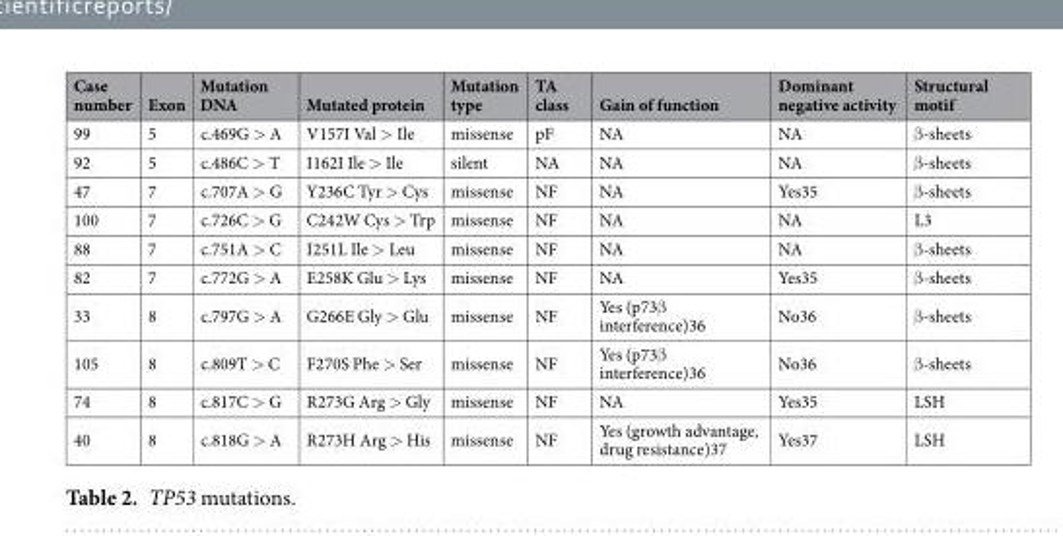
<table><thead><tr><td>Case number</td><td>Exon</td><td>Mutation DNA</td><td>Mutated protein</td><td>Mutation type</td><td>TA class</td><td>Gain of function</td><td>Dominant negative activity</td><td>Structural motif</td></tr></thead><tbody><tr><td>99</td><td>5</td><td>c.469G &gt; A</td><td>V157I Val &gt; Ile</td><td>missense</td><td>pF</td><td>NA</td><td>NA</td><td>β-sheets</td></tr><tr><td>92</td><td>5</td><td>c.486C &gt; T</td><td>I162I Ile &gt; Ile</td><td>silent</td><td>NA</td><td>NA</td><td>NA</td><td>β-sheets</td></tr><tr><td>47</td><td>7</td><td>c.707A &gt; G</td><td>Y236C Tyr &gt; Cys</td><td>missense</td><td>NF</td><td>NA</td><td>Yes35</td><td>β-sheets</td></tr><tr><td>100</td><td>7</td><td>c.726C &gt; G</td><td>C242W Cys &gt; Trp</td><td>missense</td><td>NF</td><td>NA</td><td>NA</td><td>L3</td></tr><tr><td>88</td><td>7</td><td>c.751A &gt; C</td><td>I251L Ile &gt; Leu</td><td>missense</td><td>NF</td><td>NA</td><td>NA</td><td>β-sheets</td></tr><tr><td>82</td><td>7</td><td>c.772G &gt; A</td><td>E258K Glu &gt; Lys</td><td>missense</td><td>NF</td><td>NA</td><td>Yes35</td><td>β-sheets</td></tr><tr><td>33</td><td>8</td><td>c.797G &gt; A</td><td>G266E Gly &gt; Glu</td><td>missense</td><td>NF</td><td>Yes (p73β interference)36</td><td>No36</td><td>β-sheets</td></tr><tr><td>105</td><td>8</td><td>c.809T &gt; C</td><td>F270S Phe &gt; Ser</td><td>missense</td><td>NF</td><td>Yes (p73β interference)36</td><td>No36</td><td>β-sheets</td></tr><tr><td>74</td><td>8</td><td>c.817C &gt; G</td><td>R273G Arg &gt; Gly</td><td>missense</td><td>NF</td><td>NA</td><td>Yes35</td><td>LSH</td></tr><tr><td>40</td><td>8</td><td>c.818G &gt; A</td><td>R273H Arg &gt; His</td><td>missense</td><td>NF</td><td>Yes (growth advantage, drug resistance)37</td><td>Yes37</td><td>LSH</td></tr></tbody></table>